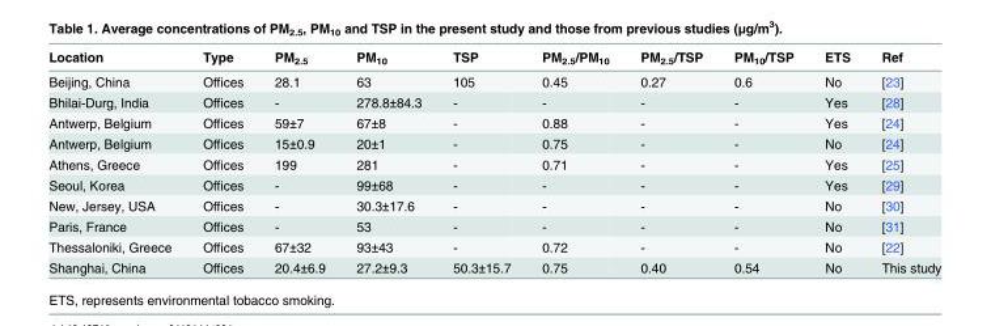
<table><thead><tr><td>Location</td><td>Type</td><td>PM<sub>2.5</sub></td><td>PM<sub>10</sub></td><td>TSP</td><td>PM<sub>2.5</sub>/PM<sub>10</sub></td><td>PM<sub>2.5</sub>/TSP</td><td>PM<sub>10</sub>/TSP</td><td>ETS</td><td>Ref</td></tr></thead><tbody><tr><td>Beijing, China</td><td>Offices</td><td>28.1</td><td>63</td><td>105</td><td>0.45</td><td>0.27</td><td>0.6</td><td>No</td><td>[23]</td></tr><tr><td>Bhilai-Durg, India</td><td>Offices</td><td>-</td><td>278.8±84.3</td><td>-</td><td>-</td><td>-</td><td>-</td><td>Yes</td><td>[28]</td></tr><tr><td>Antwerp, Belgium</td><td>Offices</td><td>59±7</td><td>67±8</td><td>-</td><td>0.88</td><td>-</td><td>-</td><td>Yes</td><td>[24]</td></tr><tr><td>Antwerp, Belgium</td><td>Offices</td><td>15±0.9</td><td>20±1</td><td>-</td><td>0.75</td><td>-</td><td>-</td><td>No</td><td>[24]</td></tr><tr><td>Athens, Greece</td><td>Offices</td><td>199</td><td>281</td><td>-</td><td>0.71</td><td>-</td><td>-</td><td>Yes</td><td>[25]</td></tr><tr><td>Seoul, Korea</td><td>Offices</td><td>-</td><td>99±68</td><td>-</td><td>-</td><td>-</td><td>-</td><td>Yes</td><td>[29]</td></tr><tr><td>New, Jersey, USA</td><td>Offices</td><td>-</td><td>30.3±17.6</td><td>-</td><td>-</td><td>-</td><td>-</td><td>No</td><td>[30]</td></tr><tr><td>Paris, France</td><td>Offices</td><td>-</td><td>53</td><td>-</td><td>-</td><td>-</td><td>-</td><td>No</td><td>[31]</td></tr><tr><td>Thessaloniki, Greece</td><td>Offices</td><td>67±32</td><td>93±43</td><td>-</td><td>0.72</td><td>-</td><td>-</td><td>No</td><td>[22]</td></tr><tr><td>Shanghai, China</td><td>Offices</td><td>20.4±6.9</td><td>27.2±9.3</td><td>50.3±15.7</td><td>0.75</td><td>0.40</td><td>0.54</td><td>No</td><td>This study</td></tr></tbody></table>